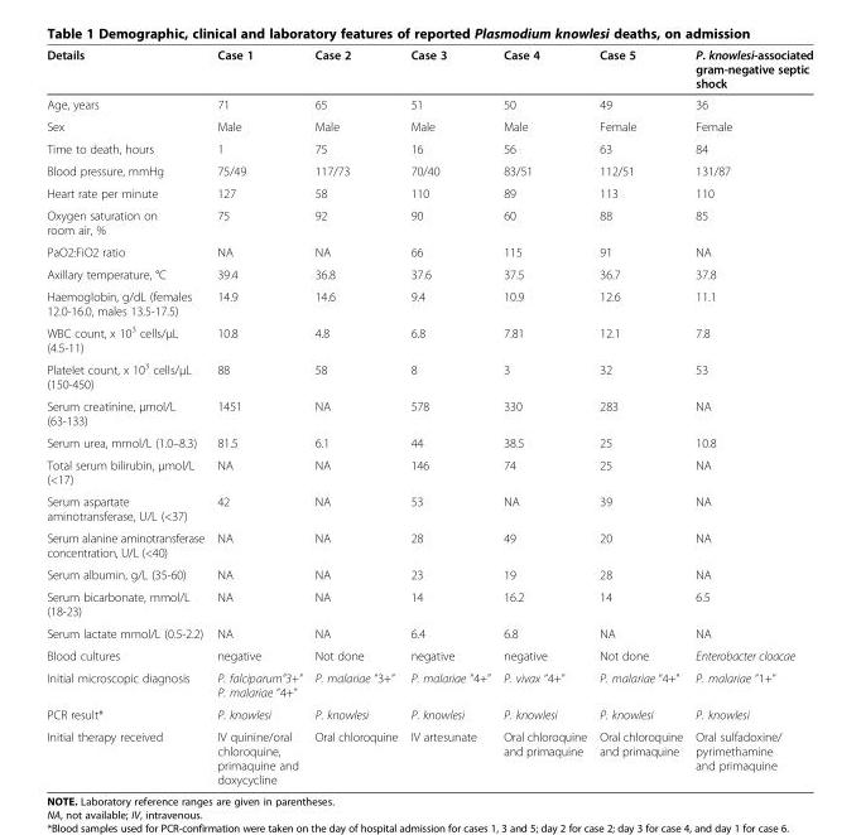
<table><thead><tr><td>Details</td><td>Case 1</td><td>Case 2</td><td>Case 3</td><td>Case 4</td><td>Case 5</td><td>P. knowlesi-associated gram-negative septic shock</td></tr></thead><tbody><tr><td>Age, years</td><td>71</td><td>65</td><td>51</td><td>50</td><td>49</td><td>36</td></tr><tr><td>Sex</td><td>Male</td><td>Male</td><td>Male</td><td>Male</td><td>Female</td><td>Female</td></tr><tr><td>Time to death, hours</td><td>1</td><td>75</td><td>16</td><td>56</td><td>63</td><td>84</td></tr><tr><td>Blood pressure, mmHg</td><td>75/49</td><td>117/73</td><td>70/40</td><td>83/51</td><td>112/51</td><td>131/87</td></tr><tr><td>Heart rate per minute</td><td>127</td><td>58</td><td>110</td><td>89</td><td>113</td><td>110</td></tr><tr><td>Oxygen saturation on room air, %</td><td>75</td><td>92</td><td>90</td><td>60</td><td>88</td><td>85</td></tr><tr><td>PaO2:FiO2 ratio</td><td>NA</td><td>NA</td><td>66</td><td>115</td><td>91</td><td>NA</td></tr><tr><td>Axillary temperature, °C</td><td>39.4</td><td>36.8</td><td>37.6</td><td>37.5</td><td>36.7</td><td>37.8</td></tr><tr><td>Haemoglobin, g/dL (females 12.0-16.0, males 13.5-17.5)</td><td>14.9</td><td>14.6</td><td>9.4</td><td>10.9</td><td>12.6</td><td>11.1</td></tr><tr><td>WBC count, x 10<sup>3</sup> cells/μL (4.5-11)</td><td>10.8</td><td>4.8</td><td>6.8</td><td>7.81</td><td>12.1</td><td>7.8</td></tr><tr><td>Platelet count, x 10<sup>3</sup> cells/μL (150-450)</td><td>88</td><td>58</td><td>8</td><td>3</td><td>32</td><td>53</td></tr><tr><td>Serum creatinine, μmol/L (63-133)</td><td>1451</td><td>NA</td><td>578</td><td>330</td><td>283</td><td>NA</td></tr><tr><td>Serum urea, mmol/L (1.0–8.3)</td><td>81.5</td><td>6.1</td><td>44</td><td>38.5</td><td>25</td><td>10.8</td></tr><tr><td>Total serum bilirubin, μmol/L (&lt;17)</td><td>NA</td><td>NA</td><td>146</td><td>74</td><td>25</td><td>NA</td></tr><tr><td>Serum aspartate aminotransferase, U/L (&lt;37)</td><td>42</td><td>NA</td><td>53</td><td>NA</td><td>39</td><td>NA</td></tr><tr><td>Serum alanine aminotransferase concentration, U/L (&lt;40)</td><td>NA</td><td>NA</td><td>28</td><td>49</td><td>20</td><td>NA</td></tr><tr><td>Serum albumin, g/L (35-60)</td><td>NA</td><td>NA</td><td>23</td><td>19</td><td>28</td><td>NA</td></tr><tr><td>Serum bicarbonate, mmol/L (18-23)</td><td>NA</td><td>NA</td><td>14</td><td>16.2</td><td>14</td><td>6.5</td></tr><tr><td>Serum lactate mmol/L (0.5-2.2)</td><td>NA</td><td>NA</td><td>6.4</td><td>6.8</td><td>NA</td><td>NA</td></tr><tr><td>Blood cultures</td><td>negative</td><td>Not done</td><td>negative</td><td>negative</td><td>Not done</td><td>Enterobacter cloacae</td></tr><tr><td>Initial microscopic diagnosis</td><td>P. falciparum”3+” P. malariae “4+”</td><td>P. malariae “3+”</td><td>P. malariae “4+”</td><td>P. vivax “4+”</td><td>P. malariae “4+”</td><td>P. malariae “1+”</td></tr><tr><td>PCR result*</td><td>P. knowlesi</td><td>P. knowlesi</td><td>P. knowlesi</td><td>P. knowlesi</td><td>P. knowlesi</td><td>P. knowlesi</td></tr><tr><td>Initial therapy received</td><td>IV quinine/oral chloroquine, primaquine and doxycycline</td><td>Oral chloroquine</td><td>IV artesunate</td><td>Oral chloroquine and primaquine</td><td>Oral chloroquine and primaquine</td><td>Oral sulfadoxine/ pyrimethamine and primaquine</td></tr></tbody></table>